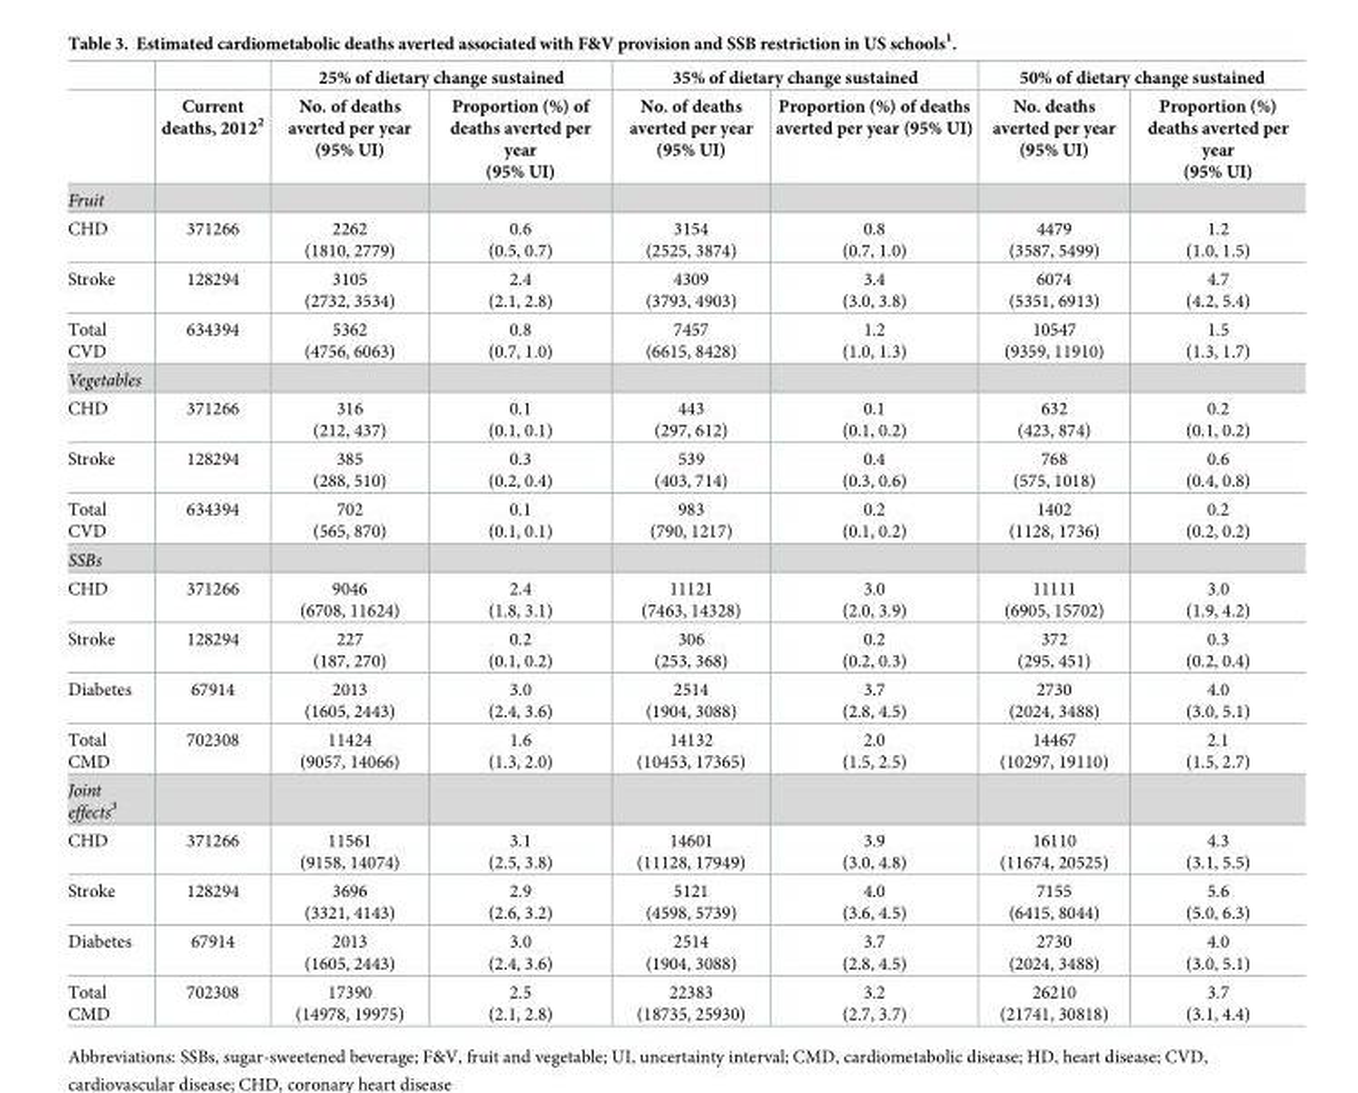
<table><thead><tr><td rowspan="2"></td><td rowspan="2">Current deaths, 2012<sup>2</sup></td><td colspan="2">25% of dietary change sustained</td><td colspan="2">35% of dietary change sustained</td><td colspan="2">50% of dietary change sustained</td></tr><tr><td>No. of deaths averted per year (95% UI)</td><td>Proportion (%) of deaths averted per year (95% UI)</td><td>No. of deaths averted per year (95% UI)</td><td>Proportion (%) of deaths averted per year (95% UI)</td><td>No. deaths averted per year (95% UI)</td><td>Proportion (%) deaths averted per year (95% UI)</td></tr></thead><tbody><tr><td colspan="8">Fruit</td></tr><tr><td>CHD</td><td>371266</td><td>2262 (1810, 2779)</td><td>0.6 (0.5, 0.7)</td><td>3154 (2525, 3874)</td><td>0.8 (0.7, 1.0)</td><td>4479 (3587, 5499)</td><td>1.2 (1.0, 1.5)</td></tr><tr><td>Stroke</td><td>128294</td><td>3105 (2732, 3534)</td><td>2.4 (2.1, 2.8)</td><td>4309 (3793, 4903)</td><td>3.4 (3.0, 3.8)</td><td>6074 (5351, 6913)</td><td>4.7 (4.2, 5.4)</td></tr><tr><td>Total CVD</td><td>634394</td><td>5362 (4756, 6063)</td><td>0.8 (0.7, 1.0)</td><td>7457 (6615, 8428)</td><td>1.2 (1.0, 1.3)</td><td>10547 (9359, 11910)</td><td>1.5 (1.3, 1.7)</td></tr><tr><td colspan="8">Vegetables</td></tr><tr><td>CHD</td><td>371266</td><td>316 (212, 437)</td><td>0.1 (0.1, 0.1)</td><td>443 (297, 612)</td><td>0.1 (0.1, 0.2)</td><td>632 (423, 874)</td><td>0.2 (0.1, 0.2)</td></tr><tr><td>Stroke</td><td>128294</td><td>385 (288, 510)</td><td>0.3 (0.2, 0.4)</td><td>539 (403, 714)</td><td>0.4 (0.3, 0.6)</td><td>768 (575, 1018)</td><td>0.6 (0.4, 0.8)</td></tr><tr><td>Total CVD</td><td>634394</td><td>702 (565, 870)</td><td>0.1 (0.1, 0.1)</td><td>983 (790, 1217)</td><td>0.2 (0.1, 0.2)</td><td>1402 (1128, 1736)</td><td>0.2 (0.2, 0.2)</td></tr><tr><td colspan="8">SSBs</td></tr><tr><td>CHD</td><td>371266</td><td>9046 (6708, 11624)</td><td>2.4 (1.8, 3.1)</td><td>11121 (7463, 14328)</td><td>3.0 (2.0, 3.9)</td><td>11111 (6905, 15702)</td><td>3.0 (1.9, 4.2)</td></tr><tr><td>Stroke</td><td>128294</td><td>227 (187, 270)</td><td>0.2 (0.1, 0.2)</td><td>306 (253, 368)</td><td>0.2 (0.2, 0.3)</td><td>372 (295, 451)</td><td>0.3 (0.2, 0.4)</td></tr><tr><td>Diabetes</td><td>67914</td><td>2013 (1605, 2443)</td><td>3.0 (2.4, 3.6)</td><td>2514 (1904, 3088)</td><td>3.7 (2.8, 4.5)</td><td>2730 (2024, 3488)</td><td>4.0 (3.0, 5.1)</td></tr><tr><td>Total CMD</td><td>702308</td><td>11424 (9057, 14066)</td><td>1.6 (1.3, 2.0)</td><td>14132 (10453, 17365)</td><td>2.0 (1.5, 2.5)</td><td>14467 (10297, 19110)</td><td>2.1 (1.5, 2.7)</td></tr><tr><td colspan="8">Joint effects<sup>3</sup></td></tr><tr><td>CHD</td><td>371266</td><td>11561 (9158, 14074)</td><td>3.1 (2.5, 3.8)</td><td>14601 (11128, 17949)</td><td>3.9 (3.0, 4.8)</td><td>16110 (11674, 20525)</td><td>4.3 (3.1, 5.5)</td></tr><tr><td>Stroke</td><td>128294</td><td>3696 (3321, 4143)</td><td>2.9 (2.6, 3.2)</td><td>5121 (4598, 5739)</td><td>4.0 (3.6, 4.5)</td><td>7155 (6415, 8044)</td><td>5.6 (5.0, 6.3)</td></tr><tr><td>Diabetes</td><td>67914</td><td>2013 (1605, 2443)</td><td>3.0 (2.4, 3.6)</td><td>2514 (1904, 3088)</td><td>3.7 (2.8, 4.5)</td><td>2730 (2024, 3488)</td><td>4.0 (3.0, 5.1)</td></tr><tr><td>Total CMD</td><td>702308</td><td>17390 (14978, 19975)</td><td>2.5 (2.1, 2.8)</td><td>22383 (18735, 25930)</td><td>3.2 (2.7, 3.7)</td><td>26210 (21741, 30818)</td><td>3.7 (3.1, 4.4)</td></tr></tbody></table>